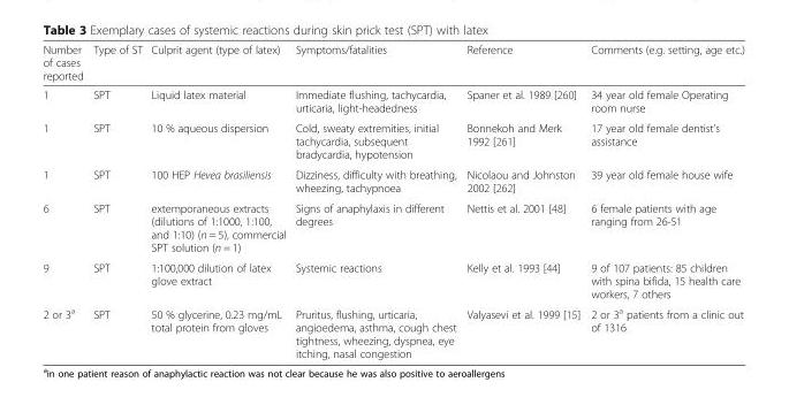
<table><thead><tr><td>Number of cases reported</td><td>Type of ST</td><td>Culprit agent (type of latex)</td><td>Symptoms/fatalities</td><td>Reference</td><td>Comments (e.g. setting, age etc.)</td></tr></thead><tbody><tr><td>1</td><td>SPT</td><td>Liquid latex material</td><td>Immediate flushing, tachycardia, urticaria, light-headedness</td><td>Spaner et al. 1989 [260]</td><td>34 year old female Operating room nurse</td></tr><tr><td>1</td><td>SPT</td><td>10 % aqueous dispersion</td><td>Cold, sweaty extremities, initial tachycardia, subsequent bradycardia, hypotension</td><td>Bonnekoh and Merk 1992 [261]</td><td>17 year old female dentist’s assistance</td></tr><tr><td>1</td><td>SPT</td><td>100 HEP Hevea brasiliensis</td><td>Dizziness, difficulty with breathing, wheezing, tachypnoea</td><td>Nicolaou and Johnston 2002 [262]</td><td>39 year old female house wife</td></tr><tr><td>6</td><td>SPT</td><td>extemporaneous extracts (dilutions of 1:1000, 1:100, and 1:10) (n = 5), commercial SPT solution (n = 1)</td><td>Signs of anaphylaxis in different degrees</td><td>Nettis et al. 2001 [48]</td><td>6 female patients with age ranging from 26-51</td></tr><tr><td>9</td><td>SPT</td><td>1:100,000 dilution of latex glove extract</td><td>Systemic reactions</td><td>Kelly et al. 1993 [44]</td><td>9 of 107 patients: 85 children with spina bifida, 15 health care workers, 7 others</td></tr><tr><td>2 or 3<sup>a</sup></td><td>SPT</td><td>50 % glycerine, 0.23 mg/mL total protein from gloves</td><td>Pruritus, flushing, urticaria, angioedema, asthma, cough chest tightness, wheezing, dyspnea, eye itching, nasal congestion</td><td>Valyasevi et al. 1999 [15]</td><td>2 or 3<sup>a</sup> patients from a clinic out of 1316</td></tr></tbody></table>